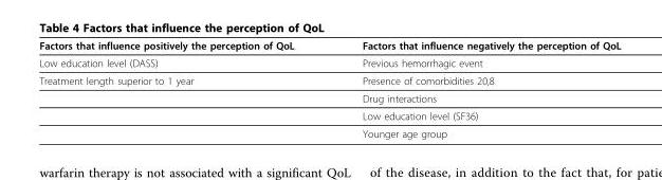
<table><thead><tr><td>Factors that influence positively the perception of QoL</td><td>Factors that influence negatively the perception of QoL</td></tr></thead><tbody><tr><td>Low education level (DASS)</td><td>Previous hemorrhagic event</td></tr><tr><td rowspan="4">Treatment length superior to 1 year</td><td>Presence of comorbidities 20,8</td></tr><tr><td>Drug interactions</td></tr><tr><td>Low education level (SF36)</td></tr><tr><td>Younger age group</td></tr></tbody></table>